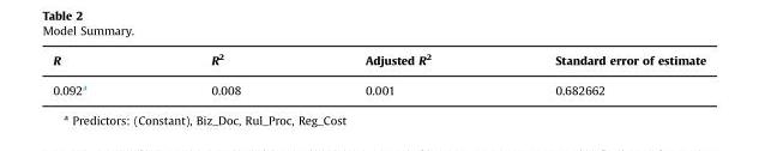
<table><thead><tr><td>R</td><td>R<sup>2</sup></td><td>Adjusted R<sup>2</sup></td><td>Standard error of estimate</td></tr></thead><tbody><tr><td>0.092<sup>a</sup></td><td>0.008</td><td>0.001</td><td>0.682662</td></tr></tbody></table>